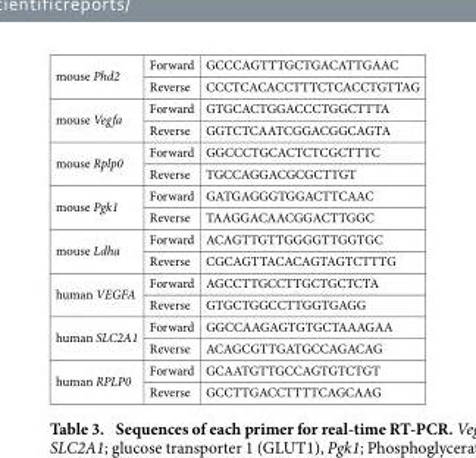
<table><tbody><tr><td rowspan="2">mouse Phd2</td><td>Forward</td><td>GCCCAGTTTGCTGACATTGAAC</td></tr><tr><td>Reverse</td><td>CCCTCACACCTTTCTCACCTGTTAG</td></tr><tr><td rowspan="2">mouse Vegfa</td><td>Forward</td><td>GTGCACTGGACCCTGGCTTTA</td></tr><tr><td>Reverse</td><td>GGTCTCAATCGGACGGCAGTA</td></tr><tr><td rowspan="2">mouse Rplp0</td><td>Forward</td><td>GGCCCTGCACTCTCGCTTTC</td></tr><tr><td>Reverse</td><td>TGCCAGGACGCGCTTGT</td></tr><tr><td rowspan="2">mouse Pgk1</td><td>Forward</td><td>GATGAGGGTGGACTTCAAC</td></tr><tr><td>Reverse</td><td>TAAGGACAACGGACTTGGC</td></tr><tr><td rowspan="2">mouse Ldha</td><td>Forward</td><td>ACAGTTGTTGGGGTTGGTGC</td></tr><tr><td>Reverse</td><td>CGCAGTTACACAGTAGTCTTTG</td></tr><tr><td rowspan="2">human VEGFA</td><td>Forward</td><td>AGCCTTGCCTTGCTGCTCTA</td></tr><tr><td>Reverse</td><td>GTGCTGGCCTTGGTGAGG</td></tr><tr><td rowspan="2">human SLC2A1</td><td>Forward</td><td>GGCCAAGAGTGTGCTAAAGAA</td></tr><tr><td>Reverse</td><td>ACAGCGTTGATGCCAGACAG</td></tr><tr><td rowspan="2">human RPLP0</td><td>Forward</td><td>GCAATGTTGCCAGTGTCTGT</td></tr><tr><td>Reverse</td><td>GCCTTGACCTTTTCAGCAAG</td></tr></tbody></table>